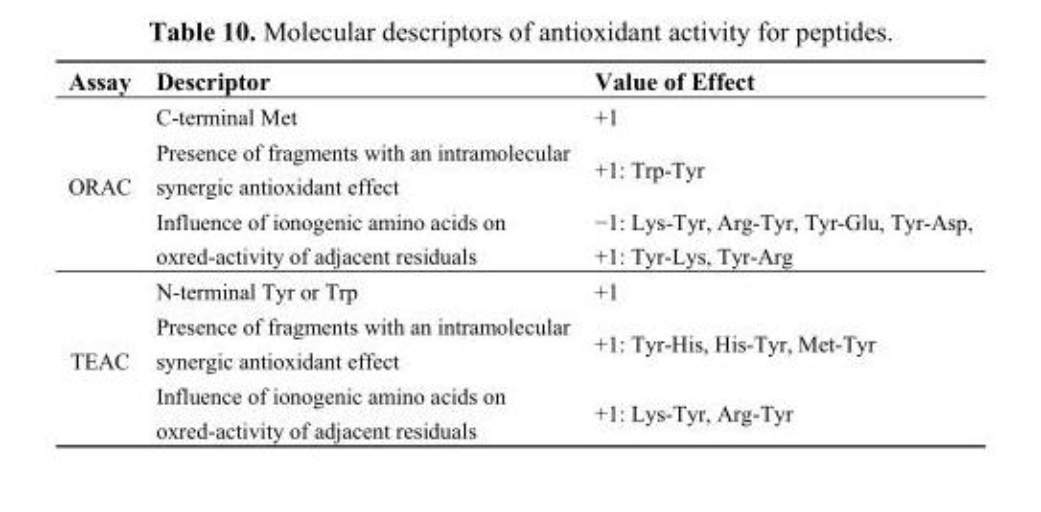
<table><thead><tr><td>Assay</td><td>Descriptor</td><td>Value of Effect</td></tr></thead><tbody><tr><td rowspan="3">ORAC</td><td>C-terminal Met</td><td>+1</td></tr><tr><td>Presence of fragments with an intramolecular synergic antioxidant effect</td><td>+1: Trp-Tyr</td></tr><tr><td>Influence of ionogenic amino acids on oxred-activity of adjacent residuals</td><td>−1: Lys-Tyr, Arg-Tyr, Tyr-Glu, Tyr-Asp, +1: Tyr-Lys, Tyr-Arg</td></tr><tr><td rowspan="3">TEAC</td><td>N-terminal Tyr or Trp</td><td>+1</td></tr><tr><td>Presence of fragments with an intramolecular synergic antioxidant effect</td><td>+1: Tyr-His, His-Tyr, Met-Tyr</td></tr><tr><td>Influence of ionogenic amino acids on oxred-activity of adjacent residuals</td><td>+1: Lys-Tyr, Arg-Tyr</td></tr></tbody></table>